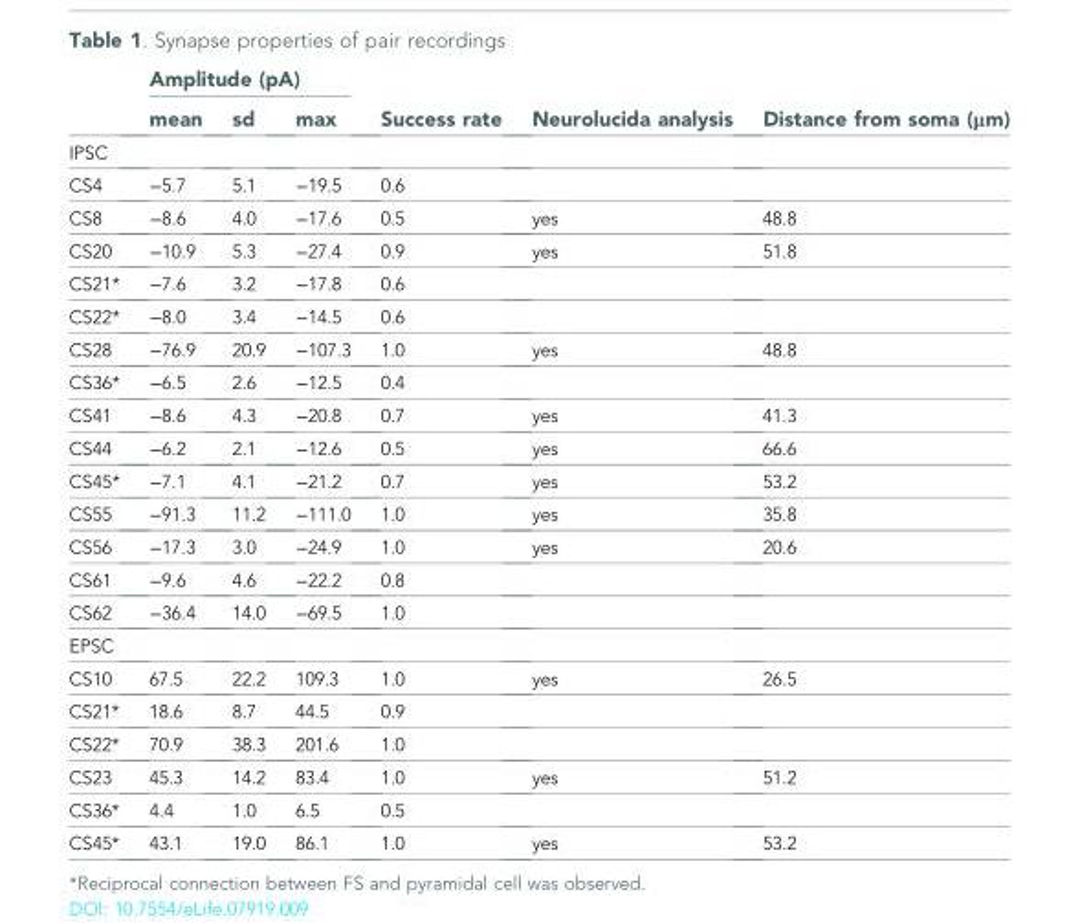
<table><thead><tr><td rowspan="2"></td><td colspan="3">Amplitude (pA)</td><td rowspan="2">Success rate</td><td rowspan="2">Neurolucida analysis</td><td rowspan="2">Distance from soma (μm)</td></tr><tr><td>mean</td><td>sd</td><td>max</td></tr></thead><tbody><tr><td colspan="7">IPSC</td></tr><tr><td>CS4</td><td>−5.7</td><td>5.1</td><td>−19.5</td><td>0.6</td><td></td><td></td></tr><tr><td>CS8</td><td>−8.6</td><td>4.0</td><td>−17.6</td><td>0.5</td><td>yes</td><td>48.8</td></tr><tr><td>CS20</td><td>−10.9</td><td>5.3</td><td>−27.4</td><td>0.9</td><td>yes</td><td>51.8</td></tr><tr><td>CS21*</td><td>−7.6</td><td>3.2</td><td>−17.8</td><td>0.6</td><td></td><td></td></tr><tr><td>CS22*</td><td>−8.0</td><td>3.4</td><td>−14.5</td><td>0.6</td><td></td><td></td></tr><tr><td>CS28</td><td>−76.9</td><td>20.9</td><td>−107.3</td><td>1.0</td><td>yes</td><td>48.8</td></tr><tr><td>CS36*</td><td>−6.5</td><td>2.6</td><td>−12.5</td><td>0.4</td><td></td><td></td></tr><tr><td>CS41</td><td>−8.6</td><td>4.3</td><td>−20.8</td><td>0.7</td><td>yes</td><td>41.3</td></tr><tr><td>CS44</td><td>−6.2</td><td>2.1</td><td>−12.6</td><td>0.5</td><td>yes</td><td>66.6</td></tr><tr><td>CS45*</td><td>−7.1</td><td>4.1</td><td>−21.2</td><td>0.7</td><td>yes</td><td>53.2</td></tr><tr><td>CS55</td><td>−91.3</td><td>11.2</td><td>−111.0</td><td>1.0</td><td>yes</td><td>35.8</td></tr><tr><td>CS56</td><td>−17.3</td><td>3.0</td><td>−24.9</td><td>1.0</td><td>yes</td><td>20.6</td></tr><tr><td>CS61</td><td>−9.6</td><td>4.6</td><td>−22.2</td><td>0.8</td><td></td><td></td></tr><tr><td>CS62</td><td>−36.4</td><td>14.0</td><td>−69.5</td><td>1.0</td><td></td><td></td></tr><tr><td colspan="7">EPSC</td></tr><tr><td>CS10</td><td>67.5</td><td>22.2</td><td>109.3</td><td>1.0</td><td>yes</td><td>26.5</td></tr><tr><td>CS21*</td><td>18.6</td><td>8.7</td><td>44.5</td><td>0.9</td><td></td><td></td></tr><tr><td>CS22*</td><td>70.9</td><td>38.3</td><td>201.6</td><td>1.0</td><td></td><td></td></tr><tr><td>CS23</td><td>45.3</td><td>14.2</td><td>83.4</td><td>1.0</td><td>yes</td><td>51.2</td></tr><tr><td>CS36*</td><td>4.4</td><td>1.0</td><td>6.5</td><td>0.5</td><td></td><td></td></tr><tr><td>CS45*</td><td>43.1</td><td>19.0</td><td>86.1</td><td>1.0</td><td>yes</td><td>53.2</td></tr></tbody></table>